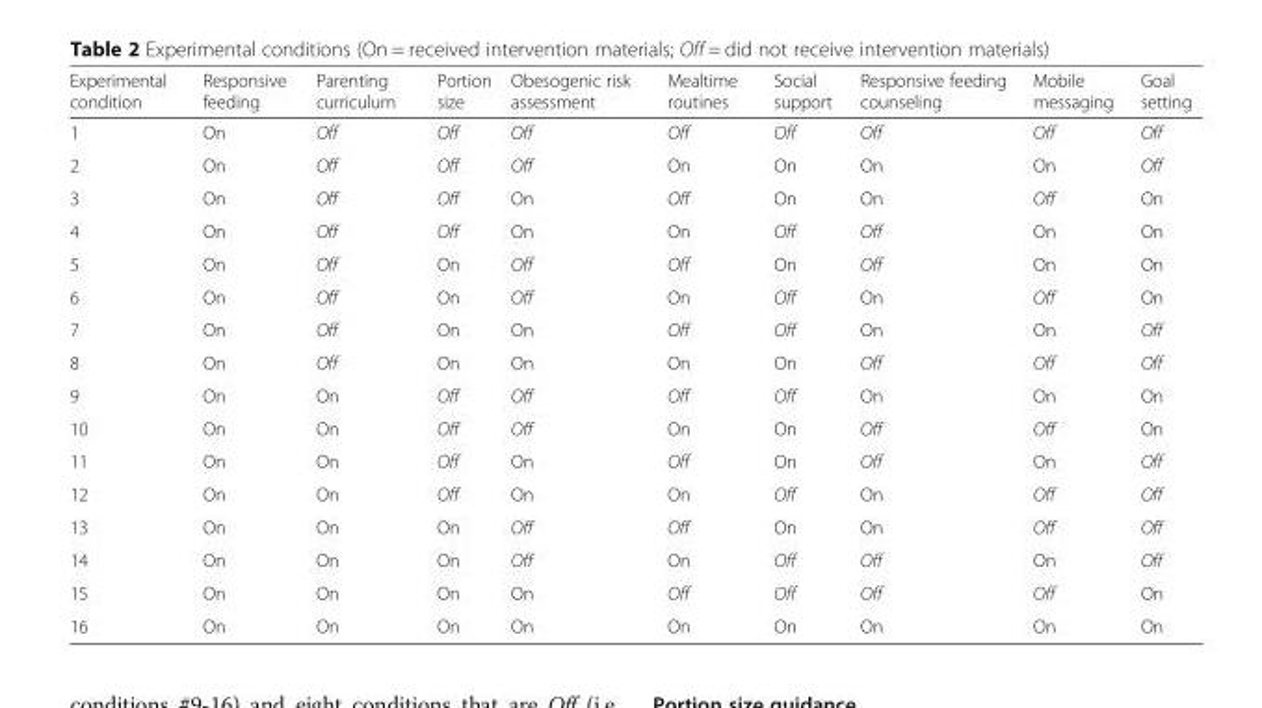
<table><thead><tr><td>Experimental condition</td><td>Responsive feeding</td><td>Parenting curriculum</td><td>Portion size</td><td>Obesogenic risk assessment</td><td>Mealtime routines</td><td>Social support</td><td>Responsive feeding counseling</td><td>Mobile messaging</td><td>Goal setting</td></tr></thead><tbody><tr><td>1</td><td>On</td><td>Off</td><td>Off</td><td>Off</td><td>Off</td><td>Off</td><td>Off</td><td>Off</td><td>Off</td></tr><tr><td>2</td><td>On</td><td>Off</td><td>Off</td><td>Off</td><td>On</td><td>On</td><td>On</td><td>On</td><td>Off</td></tr><tr><td>3</td><td>On</td><td>Off</td><td>Off</td><td>On</td><td>Off</td><td>On</td><td>On</td><td>Off</td><td>On</td></tr><tr><td>4</td><td>On</td><td>Off</td><td>Off</td><td>On</td><td>On</td><td>Off</td><td>Off</td><td>On</td><td>On</td></tr><tr><td>5</td><td>On</td><td>Off</td><td>On</td><td>Off</td><td>Off</td><td>On</td><td>Off</td><td>On</td><td>On</td></tr><tr><td>6</td><td>On</td><td>Off</td><td>On</td><td>Off</td><td>On</td><td>Off</td><td>On</td><td>Off</td><td>On</td></tr><tr><td>7</td><td>On</td><td>Off</td><td>On</td><td>On</td><td>Off</td><td>Off</td><td>On</td><td>On</td><td>Off</td></tr><tr><td>8</td><td>On</td><td>Off</td><td>On</td><td>On</td><td>On</td><td>On</td><td>Off</td><td>Off</td><td>Off</td></tr><tr><td>9</td><td>On</td><td>On</td><td>Off</td><td>Off</td><td>Off</td><td>Off</td><td>On</td><td>On</td><td>On</td></tr><tr><td>10</td><td>On</td><td>On</td><td>Off</td><td>Off</td><td>On</td><td>On</td><td>Off</td><td>Off</td><td>On</td></tr><tr><td>11</td><td>On</td><td>On</td><td>Off</td><td>On</td><td>Off</td><td>On</td><td>Off</td><td>On</td><td>Off</td></tr><tr><td>12</td><td>On</td><td>On</td><td>Off</td><td>On</td><td>On</td><td>Off</td><td>On</td><td>Off</td><td>Off</td></tr><tr><td>13</td><td>On</td><td>On</td><td>On</td><td>Off</td><td>Off</td><td>On</td><td>On</td><td>Off</td><td>Off</td></tr><tr><td>14</td><td>On</td><td>On</td><td>On</td><td>Off</td><td>On</td><td>Off</td><td>Off</td><td>On</td><td>Off</td></tr><tr><td>15</td><td>On</td><td>On</td><td>On</td><td>On</td><td>Off</td><td>Off</td><td>Off</td><td>Off</td><td>On</td></tr><tr><td>16</td><td>On</td><td>On</td><td>On</td><td>On</td><td>On</td><td>On</td><td>On</td><td>On</td><td>On</td></tr></tbody></table>